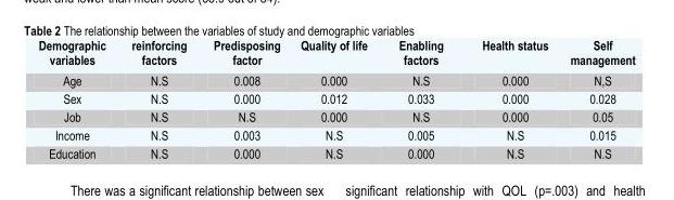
<table><thead><tr><td rowspan="6">Demographic variables Age Sex Job Income Education</td><td rowspan="6">reinforcing factors N.S N.S N.S N.S N.S</td><td rowspan="6">Predisposing factor 0.008 0.000 N.S 0.003 0.000</td><td rowspan="6">Quality of life 0.000 0.012 0.000 N.S N.S</td><td rowspan="6">Enabling factors N.S 0.033 N.S 0.005 0.000</td><td rowspan="6">Health status 0.000 0.000 0.000 N.S N.S</td><td rowspan="6">Self management N,S 0.028 0.05 0.015 N.S</td></tr><tr></tr><tr></tr><tr></tr><tr></tr><tr></tr></thead><tbody></tbody></table>